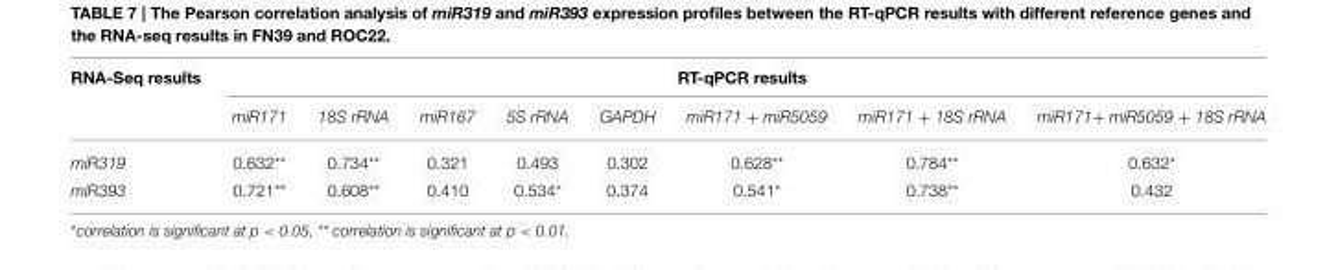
<table><thead><tr><td rowspan="2">RNA-Seq results</td><td colspan="8">RT-qPCR results</td></tr><tr><td>miR171</td><td>18S rRNA</td><td>miR167</td><td>5S rRNA</td><td>GAPDH</td><td>miR171 + miR5059</td><td>miR171 + 18S rRNA</td><td>miR171+ miR5059 + 18S rRNA</td></tr></thead><tbody><tr><td>miR319</td><td>0.632**</td><td>0.734**</td><td>0.321</td><td>0.493</td><td>0.302</td><td>0.628**</td><td>0.784**</td><td>0.632*</td></tr><tr><td>miR393</td><td>0.721**</td><td>0.608**</td><td>0.410</td><td>0.534*</td><td>0.374</td><td>0.541*</td><td>0.738**</td><td>0.432</td></tr></tbody></table>